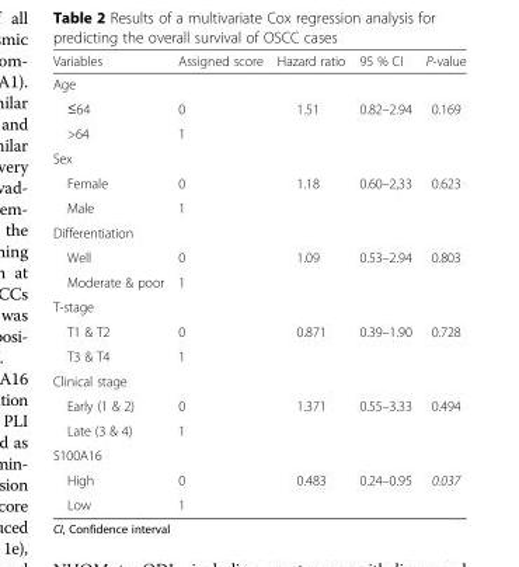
<table><thead><tr><td>Variables</td><td>Assigned score</td><td>Hazard ratio</td><td>95 % CI</td><td>P-value</td></tr></thead><tbody><tr><td colspan="5">Age</td></tr><tr><td>≤64</td><td>0</td><td>1.51</td><td>0.82–2.94</td><td>0.169</td></tr><tr><td>&gt;64</td><td>1</td><td></td><td></td><td></td></tr><tr><td colspan="5">Sex</td></tr><tr><td>Female</td><td>0</td><td>1.18</td><td>0.60–2,33</td><td>0.623</td></tr><tr><td>Male</td><td>1</td><td></td><td></td><td></td></tr><tr><td colspan="5">Differentiation</td></tr><tr><td>Well</td><td>0</td><td>1.09</td><td>0.53–2.94</td><td>0.803</td></tr><tr><td>Moderate &amp; poor</td><td>1</td><td></td><td></td><td></td></tr><tr><td colspan="5">T-stage</td></tr><tr><td>T1 &amp; T2</td><td>0</td><td>0.871</td><td>0.39–1.90</td><td>0.728</td></tr><tr><td>T3 &amp; T4</td><td>1</td><td></td><td></td><td></td></tr><tr><td colspan="5">Clinical stage</td></tr><tr><td>Early (1 &amp; 2)</td><td>0</td><td>1.371</td><td>0.55–3.33</td><td>0.494</td></tr><tr><td>Late (3 &amp; 4)</td><td>1</td><td></td><td></td><td></td></tr><tr><td colspan="5">S100A16</td></tr><tr><td>High</td><td>0</td><td>0.483</td><td>0.24–0.95</td><td>0.037</td></tr><tr><td>Low</td><td>1</td><td></td><td></td><td></td></tr></tbody></table>